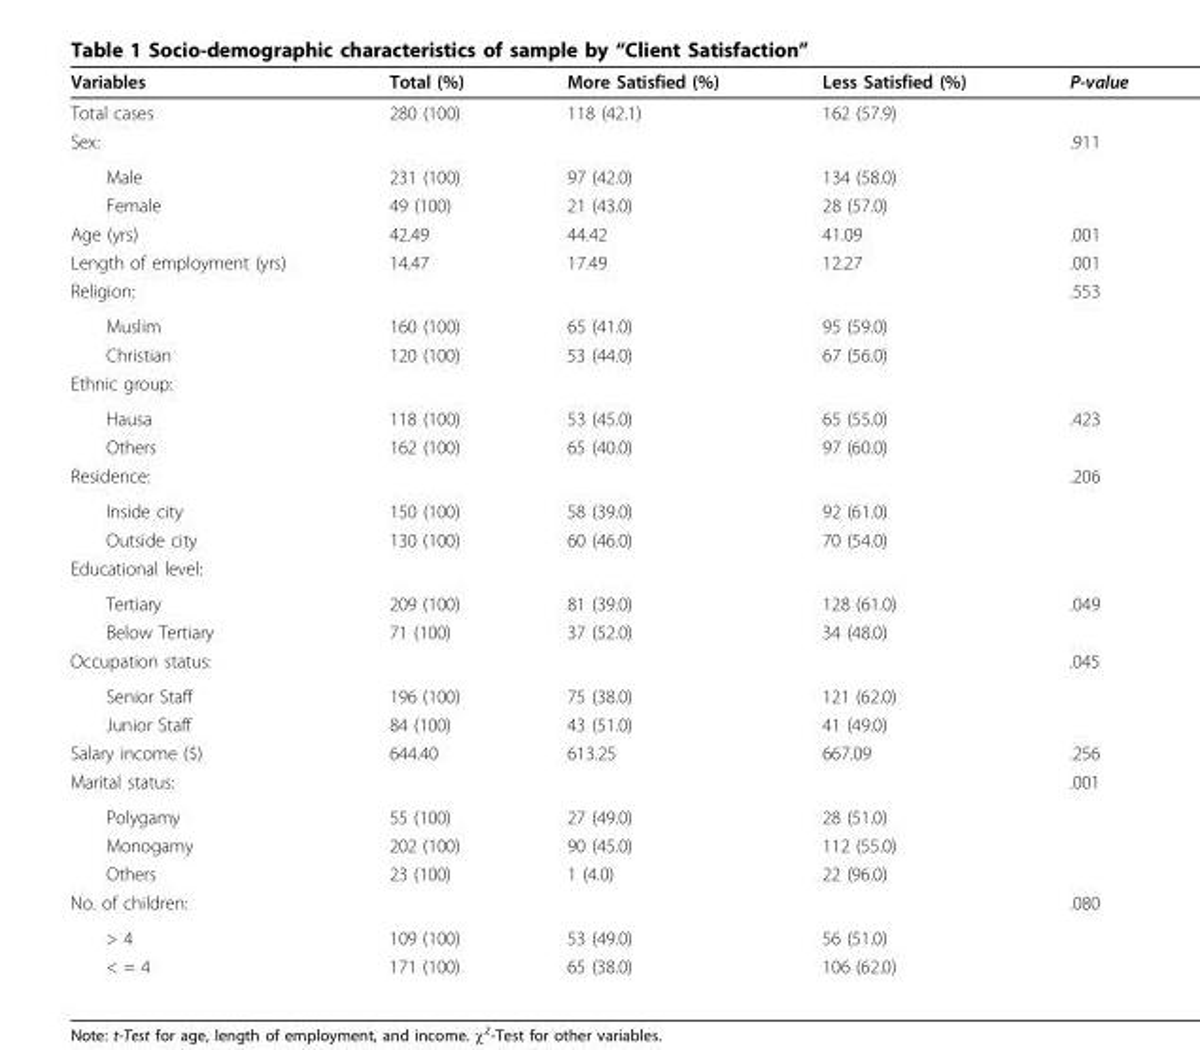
<table><thead><tr><td>Variables</td><td>Total (%)</td><td>More Satisfied (%)</td><td>Less Satisfied (%)</td><td>P-value</td></tr></thead><tbody><tr><td>Total cases</td><td>280 (100)</td><td>118 (42.1)</td><td>162 (57.9)</td><td></td></tr><tr><td>Sex:</td><td></td><td></td><td></td><td>.911</td></tr><tr><td>Male</td><td>231 (100)</td><td>97 (42.0)</td><td>134 (58.0)</td><td></td></tr><tr><td>Female</td><td>49 (100)</td><td>21 (43.0)</td><td>28 (57.0)</td><td></td></tr><tr><td>Age (yrs)</td><td>42.49</td><td>44.42</td><td>41.09</td><td>.001</td></tr><tr><td>Length of employment (yrs)</td><td>14.47</td><td>17.49</td><td>12.27</td><td>.001</td></tr><tr><td>Religion:</td><td></td><td></td><td></td><td>.553</td></tr><tr><td>Muslim</td><td>160 (100)</td><td>65 (41.0)</td><td>95 (59.0)</td><td></td></tr><tr><td>Christian</td><td>120 (100)</td><td>53 (44.0)</td><td>67 (56.0)</td><td></td></tr><tr><td colspan="5">Ethnic group:</td></tr><tr><td>Hausa</td><td>118 (100)</td><td>53 (45.0)</td><td>65 (55.0)</td><td>.423</td></tr><tr><td>Others</td><td>162 (100)</td><td>65 (40.0)</td><td>97 (60.0)</td><td></td></tr><tr><td>Residence:</td><td></td><td></td><td></td><td>.206</td></tr><tr><td>Inside city</td><td>150 (100)</td><td>58 (39.0)</td><td>92 (61.0)</td><td></td></tr><tr><td>Outside city</td><td>130 (100)</td><td>60 (46.0)</td><td>70 (54.0)</td><td></td></tr><tr><td colspan="5">Educational level:</td></tr><tr><td>Tertiary</td><td>209 (100)</td><td>81 (39.0)</td><td>128 (61.0)</td><td>.049</td></tr><tr><td>Below Tertiary</td><td>71 (100)</td><td>37 (52.0)</td><td>34 (48.0)</td><td></td></tr><tr><td>Occupation status:</td><td></td><td></td><td></td><td>.045</td></tr><tr><td>Senior Staff</td><td>196 (100)</td><td>75 (38.0)</td><td>121 (62.0)</td><td></td></tr><tr><td>Junior Staff</td><td>84 (100)</td><td>43 (51.0)</td><td>41 (49.0)</td><td></td></tr><tr><td>Salary income ($)</td><td>644.40</td><td>613.25</td><td>667.09</td><td>.256</td></tr><tr><td>Marital status:</td><td></td><td></td><td></td><td>.001</td></tr><tr><td>Polygamy</td><td>55 (100)</td><td>27 (49.0)</td><td>28 (51.0)</td><td></td></tr><tr><td>Monogamy</td><td>202 (100)</td><td>90 (45.0)</td><td>112 (55.0)</td><td></td></tr><tr><td>Others</td><td>23 (100)</td><td>1 (4.0)</td><td>22 (96.0)</td><td></td></tr><tr><td>No. of children:</td><td></td><td></td><td></td><td>.080</td></tr><tr><td>&gt; 4</td><td>109 (100)</td><td>53 (49.0)</td><td>56 (51.0)</td><td></td></tr><tr><td>&lt; = 4</td><td>171 (100)</td><td>65 (38.0)</td><td>106 (62.0)</td><td></td></tr></tbody></table>